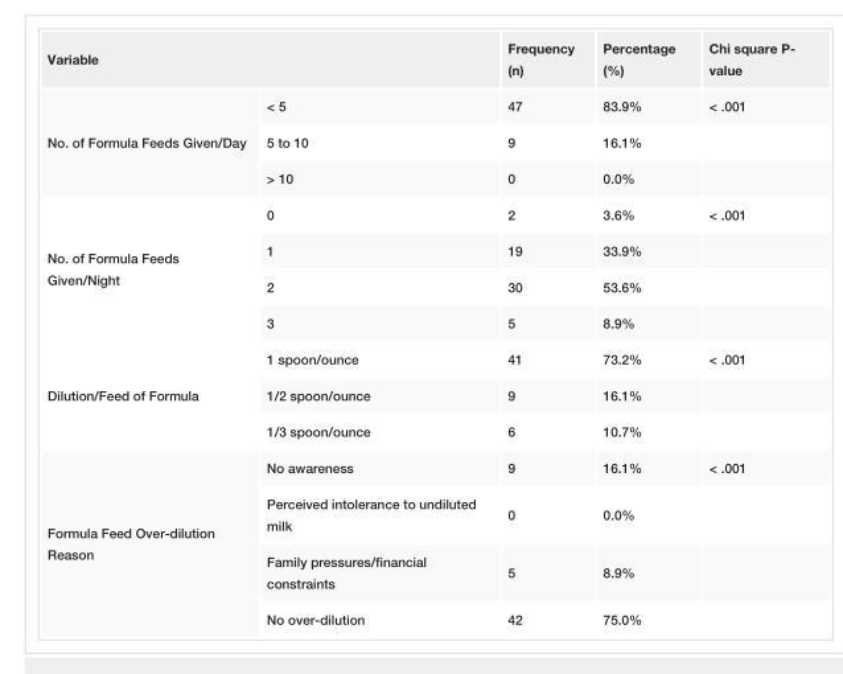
<table><tbody><tr><td colspan="2">Variable</td><td>Frequency (n)</td><td>Percentage (%)</td><td>Chi square P- value</td></tr><tr><td rowspan="3">No. of Formula Feeds Given/Day</td><td>&lt; 5</td><td>47</td><td>83.9%</td><td>&lt; .001</td></tr><tr><td>5 to 10</td><td>9</td><td>16.1%</td><td></td></tr><tr><td>&gt; 10</td><td>0</td><td>0.0%</td><td></td></tr><tr><td rowspan="4">No. of Formula Feeds Given/Night</td><td>0</td><td>2</td><td>3.6%</td><td>&lt; .001</td></tr><tr><td>1</td><td>19</td><td>33.9%</td><td></td></tr><tr><td>2</td><td>30</td><td>53.6%</td><td></td></tr><tr><td>3</td><td>5</td><td>8.9%</td><td></td></tr><tr><td rowspan="3">Dilution/Feed of Formula</td><td>1 spoon/ounce</td><td>41</td><td>73.2%</td><td>&lt; .001</td></tr><tr><td>1/2 spoon/ounce</td><td>9</td><td>16.1%</td><td></td></tr><tr><td>1/3 spoon/ounce</td><td>6</td><td>10.7%</td><td></td></tr><tr><td rowspan="4">Formula Feed Over-dilution Reason</td><td>No awareness</td><td>9</td><td>16.1%</td><td>&lt; .001</td></tr><tr><td>Perceived intolerance to undiluted milk</td><td>0</td><td>0.0%</td><td></td></tr><tr><td>Family pressures/financial constraints</td><td>5</td><td>8.9%</td><td></td></tr><tr><td>No over-dilution</td><td>42</td><td>75.0%</td><td></td></tr></tbody></table>